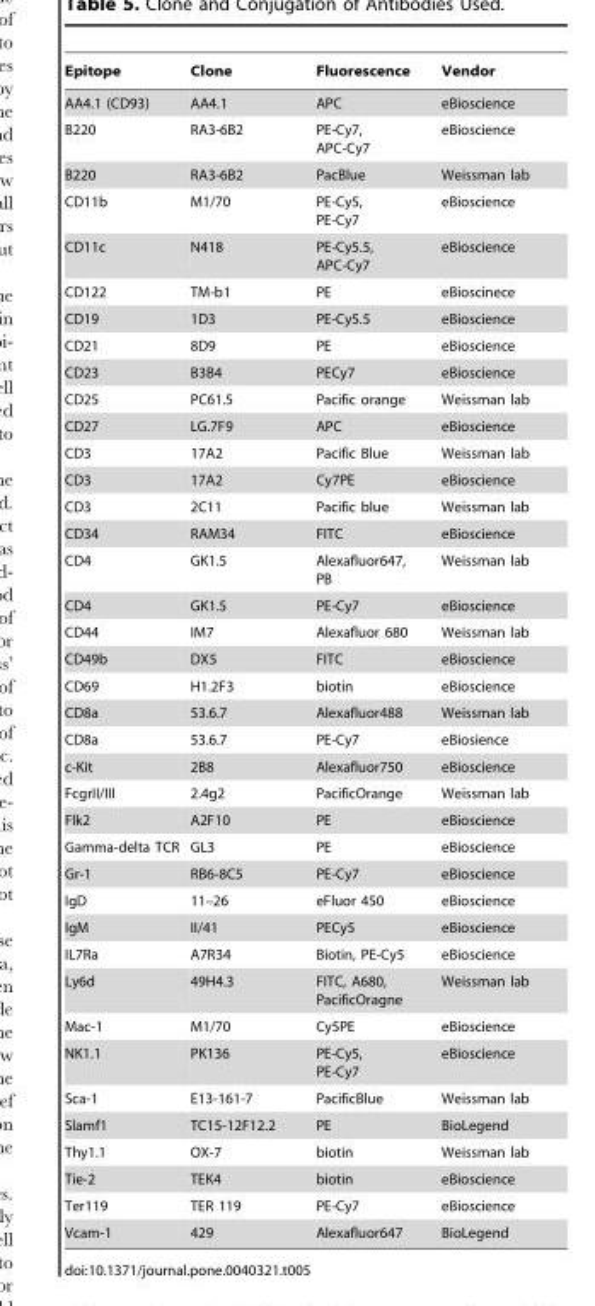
<table><thead><tr><td>Epitope</td><td>Clone</td><td>Fluorescence</td><td>Vendor</td></tr></thead><tbody><tr><td>AA4.1 (CD93)</td><td>AA4.1</td><td>APC</td><td>eBioscience</td></tr><tr><td>B220</td><td>RA3-6B2</td><td>PE-Cy7, APC-Cy7</td><td>eBioscience</td></tr><tr><td>B220</td><td>RA3-6B2</td><td>PacBlue</td><td>Weissman lab</td></tr><tr><td>CD11b</td><td>M1/70</td><td>PE-Cy5, PE-Cy7</td><td>eBioscience</td></tr><tr><td>CD11c</td><td>N418</td><td>PE-Cy5.5, APC-Cy7</td><td>eBioscience</td></tr><tr><td>CD122</td><td>TM-b1</td><td>PE</td><td>eBioscinece</td></tr><tr><td>CD19</td><td>1D3</td><td>PE-Cy5.5</td><td>eBioscience</td></tr><tr><td>CD21</td><td>8D9</td><td>PE</td><td>eBioscience</td></tr><tr><td>CD23</td><td>B3B4</td><td>PECy7</td><td>eBioscience</td></tr><tr><td>CD25</td><td>PC61.5</td><td>Pacific orange</td><td>Weissman lab</td></tr><tr><td>CD27</td><td>LG.7F9</td><td>APC</td><td>eBioscience</td></tr><tr><td>CD3</td><td>17A2</td><td>Pacific Blue</td><td>Weissman lab</td></tr><tr><td>CD3</td><td>17A2</td><td>Cy7PE</td><td>eBioscience</td></tr><tr><td>CD3</td><td>2C11</td><td>Pacific blue</td><td>Weissman lab</td></tr><tr><td>CD34</td><td>RAM34</td><td>FITC</td><td>eBioscience</td></tr><tr><td>CD4</td><td>GK1.5</td><td>Alexafluor647, PB</td><td>Weissman lab</td></tr><tr><td>CD4</td><td>GK1.5</td><td>PE-Cy7</td><td>eBioscience</td></tr><tr><td>CD44</td><td>IM7</td><td>Alexafluor 680</td><td>Weissman lab</td></tr><tr><td>CD49b</td><td>DX5</td><td>FITC</td><td>eBioscience</td></tr><tr><td>CD69</td><td>H1.2F3</td><td>biotin</td><td>eBioscience</td></tr><tr><td>CD8a</td><td>53.6.7</td><td>Alexafluor488</td><td>Weissman lab</td></tr><tr><td>CD8a</td><td>53.6.7</td><td>PE-Cy7</td><td>eBiosience</td></tr><tr><td>c-Kit</td><td>2B8</td><td>Alexafluor750</td><td>eBioscience</td></tr><tr><td>FcgrII/III</td><td>2.4g2</td><td>PacificOrange</td><td>Weissman lab</td></tr><tr><td>Flk2</td><td>A2F10</td><td>PE</td><td>eBioscience</td></tr><tr><td>Gamma-delta TCR</td><td>GL3</td><td>PE</td><td>eBioscience</td></tr><tr><td>Gr-1</td><td>RB6-8C5</td><td>PE-Cy7</td><td>eBioscience</td></tr><tr><td>IgD</td><td>11–26</td><td>eFluor 450</td><td>eBioscience</td></tr><tr><td>IgM</td><td>II/41</td><td>PECy5</td><td>eBioscience</td></tr><tr><td>IL7Ra</td><td>A7R34</td><td>Biotin, PE-Cy5</td><td>eBioscience</td></tr><tr><td>Ly6d</td><td>49H4.3</td><td>FITC, A680, PacificOragne</td><td>Weissman lab</td></tr><tr><td>Mac-1</td><td>M1/70</td><td>Cy5PE</td><td>eBioscience</td></tr><tr><td>NK1.1</td><td>PK136</td><td>PE-Cy5, PE-Cy7</td><td>eBioscience</td></tr><tr><td>Sca-1</td><td>E13-161-7</td><td>PacificBlue</td><td>Weissman lab</td></tr><tr><td>Slamf1</td><td>TC15-12F12.2</td><td>PE</td><td>BioLegend</td></tr><tr><td>Thy1.1</td><td>OX-7</td><td>biotin</td><td>Weissman lab</td></tr><tr><td>Tie-2</td><td>TEK4</td><td>biotin</td><td>eBioscience</td></tr><tr><td>Ter119</td><td>TER 119</td><td>PE-Cy7</td><td>eBioscience</td></tr><tr><td>Vcam-1</td><td>429</td><td>Alexafluor647</td><td>BioLegend</td></tr></tbody></table>